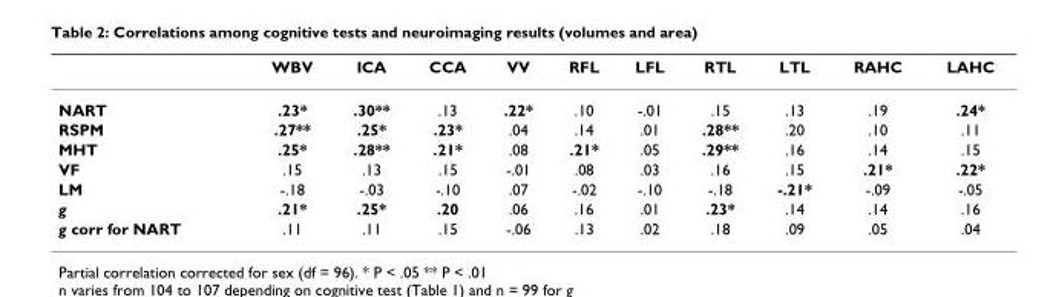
<table><thead><tr><td></td><td>WBV</td><td>ICA</td><td>CCA</td><td>VV</td><td>RFL</td><td>LFL</td><td>RTL</td><td>LTL</td><td>RAHC</td><td>LAHC</td></tr></thead><tbody><tr><td>NART</td><td>.23*</td><td>.30**</td><td>.13</td><td>.22*</td><td>.10</td><td>-.01</td><td>.15</td><td>.13</td><td>.19</td><td>.24*</td></tr><tr><td>RSPM</td><td>.27**</td><td>.25*</td><td>.23*</td><td>.04</td><td>.14</td><td>.01</td><td>.28**</td><td>.20</td><td>.10</td><td>.11</td></tr><tr><td>MHT</td><td>.25*</td><td>.28**</td><td>.21*</td><td>.08</td><td>.21*</td><td>.05</td><td>.29**</td><td>.16</td><td>.14</td><td>.15</td></tr><tr><td>VF</td><td>.15</td><td>.13</td><td>.15</td><td>-.01</td><td>.08</td><td>.03</td><td>.16</td><td>.15</td><td>.21*</td><td>.22*</td></tr><tr><td>LM</td><td>-.18</td><td>-.03</td><td>-.10</td><td>.07</td><td>-.02</td><td>-.10</td><td>-.18</td><td>-.21*</td><td>-.09</td><td>-.05</td></tr><tr><td>g</td><td>.21*</td><td>.25*</td><td>.20</td><td>.06</td><td>.16</td><td>.01</td><td>.23*</td><td>.14</td><td>.14</td><td>.16</td></tr><tr><td>g corr for NART</td><td>.11</td><td>.11</td><td>.15</td><td>-.06</td><td>.13</td><td>.02</td><td>.18</td><td>.09</td><td>.05</td><td>.04</td></tr></tbody></table>